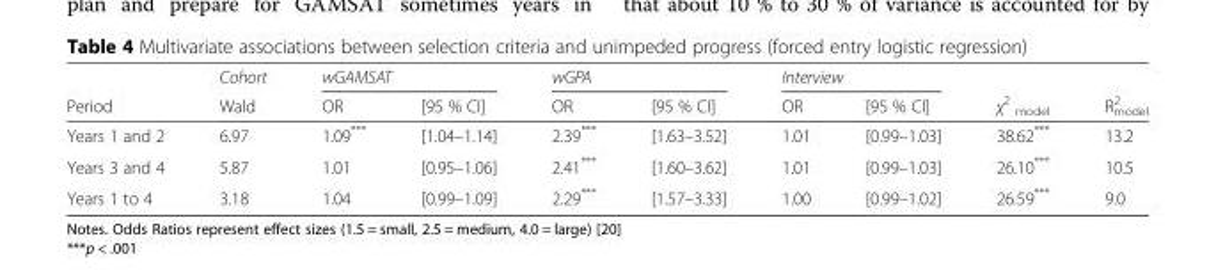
<table><thead><tr><td rowspan="2">Period</td><td rowspan="2">Cohort Wald</td><td colspan="2">wGAMSAT</td><td colspan="2">wGPA</td><td colspan="2">Interview</td><td rowspan="2">χ<sup>2</sup> <sub>model</sub></td><td rowspan="2">R<sup>2</sup> <sub>model</sub></td></tr><tr><td>OR</td><td>[95 % CI]</td><td>OR</td><td>[95 % CI]</td><td>OR</td><td>[95 % CI]</td></tr></thead><tbody><tr><td>Years 1 and 2</td><td>6.97</td><td>1.09***</td><td>[1.04–1.14]</td><td>2.39***</td><td>[1.63–3.52]</td><td>1.01</td><td>[0.99–1.03]</td><td>38.62***</td><td>13.2</td></tr><tr><td>Years 3 and 4</td><td>5.87</td><td>1.01</td><td>[0.95–1.06]</td><td>2.41***</td><td>[1.60–3.62]</td><td>1.01</td><td>[0.99–1.03]</td><td>26.10***</td><td>10.5</td></tr><tr><td>Years 1 to 4</td><td>3.18</td><td>1.04</td><td>[0.99–1.09]</td><td>2.29***</td><td>[1.57–3.33]</td><td>1.00</td><td>[0.99–1.02]</td><td>26.59***</td><td>9.0</td></tr></tbody></table>